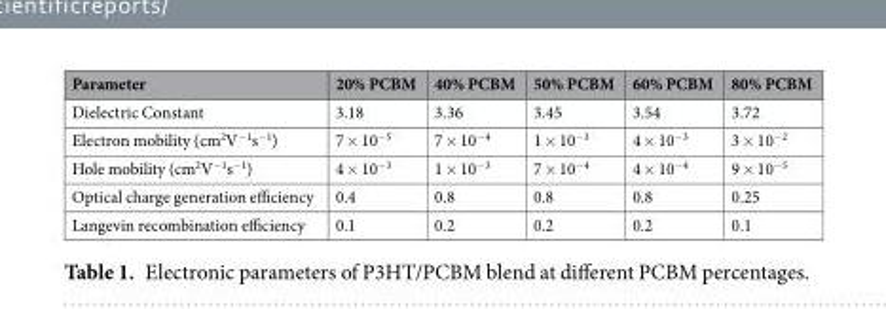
<table><thead><tr><td>Parameter</td><td>20% PCBM</td><td>40% PCBM</td><td>50% PCBM</td><td>60% PCBM</td><td>80% PCBM</td></tr></thead><tbody><tr><td>Dielectric Constant</td><td>3.18</td><td>3.36</td><td>3.45</td><td>3.54</td><td>3.72</td></tr><tr><td>Electron mobility (cm<sup>2</sup>V<sup>−1</sup>s<sup>−1</sup>)</td><td>7 × 10<sup>−5</sup></td><td>7 × 10<sup>−4</sup></td><td>1 × 10<sup>−3</sup></td><td>4 × 10<sup>−3</sup></td><td>3 × 10<sup>−2</sup></td></tr><tr><td>Hole mobility (cm<sup>2</sup>V<sup>−1</sup>s<sup>−1</sup>)</td><td>4 × 10<sup>−3</sup></td><td>1 × 10<sup>−3</sup></td><td>7 × 10<sup>−4</sup></td><td>4 × 10<sup>−4</sup></td><td>9 × 10<sup>−5</sup></td></tr><tr><td>Optical charge generation efficiency</td><td>0.4</td><td>0.8</td><td>0.8</td><td>0.8</td><td>0.25</td></tr><tr><td>Langevin recombination efficiency</td><td>0.1</td><td>0.2</td><td>0.2</td><td>0.2</td><td>0.1</td></tr></tbody></table>